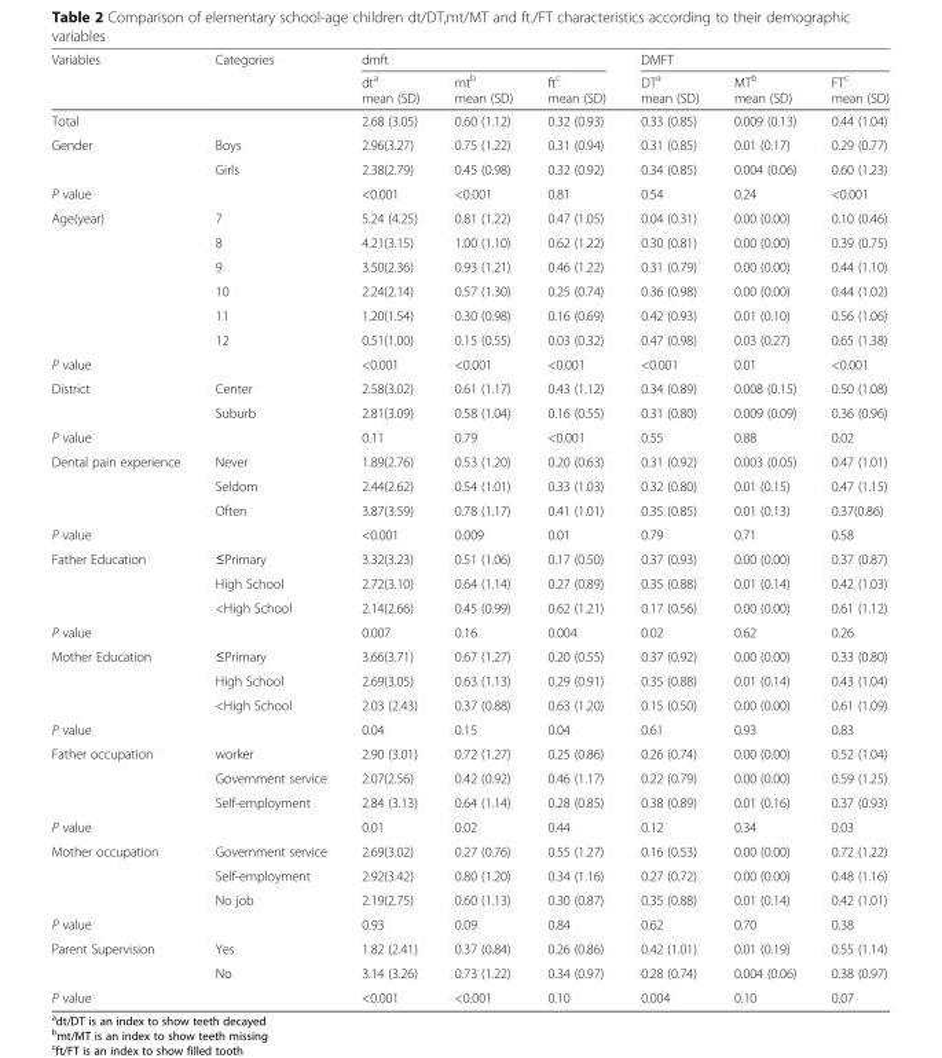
<table><thead><tr><td rowspan="2">Variables</td><td rowspan="2">Categories</td><td colspan="3">dmft</td><td colspan="3">DMFT</td></tr><tr><td>dt<sup>a</sup> mean (SD)</td><td>mt<sup>b</sup> mean (SD)</td><td>ft<sup>c</sup> mean (SD)</td><td>DT<sup>a</sup> mean (SD)</td><td>MT<sup>b</sup> mean (SD)</td><td>FT<sup>c</sup> mean (SD)</td></tr></thead><tbody><tr><td>Total</td><td></td><td>2.68 (3.05)</td><td>0.60 (1.12)</td><td>0.32 (0.93)</td><td>0.33 (0.85)</td><td>0.009 (0.13)</td><td>0.44 (1.04)</td></tr><tr><td rowspan="2">Gender</td><td>Boys</td><td>2.96(3.27)</td><td>0.75 (1.22)</td><td>0.31 (0.94)</td><td>0.31 (0.85)</td><td>0.01 (0.17)</td><td>0.29 (0.77)</td></tr><tr><td>Girls</td><td>2.38(2.79)</td><td>0.45 (0.98)</td><td>0.32 (0.92)</td><td>0.34 (0.85)</td><td>0.004 (0.06)</td><td>0.60 (1.23)</td></tr><tr><td>P value</td><td></td><td>&lt;0.001</td><td>&lt;0.001</td><td>0.81</td><td>0.54</td><td>0.24</td><td>&lt;0.001</td></tr><tr><td rowspan="6">Age(year)</td><td>7</td><td>5.24 (4.25)</td><td>0.81 (1.22)</td><td>0.47 (1.05)</td><td>0.04 (0.31)</td><td>0.00 (0.00)</td><td>0.10 (0.46)</td></tr><tr><td>8</td><td>4.21(3.15)</td><td>1.00 (1.10)</td><td>0.62 (1.22)</td><td>0.30 (0.81)</td><td>0.00 (0.00)</td><td>0.39 (0.75)</td></tr><tr><td>9</td><td>3.50(2.36)</td><td>0.93 (1.21)</td><td>0.46 (1.22)</td><td>0.31 (0.79)</td><td>0.00 (0.00)</td><td>0.44 (1.10)</td></tr><tr><td>10</td><td>2.24(2.14)</td><td>0.57 (1.30)</td><td>0.25 (0.74)</td><td>0.36 (0.98)</td><td>0.00 (0.00)</td><td>0.44 (1.02)</td></tr><tr><td>11</td><td>1.20(1.54)</td><td>0.30 (0.98)</td><td>0.16 (0.69)</td><td>0.42 (0.93)</td><td>0.01 (0.10)</td><td>0.56 (1.06)</td></tr><tr><td>12</td><td>0.51(1.00)</td><td>0.15 (0.55)</td><td>0.03 (0.32)</td><td>0.47 (0.98)</td><td>0.03 (0.27)</td><td>0.65 (1.38)</td></tr><tr><td>P value</td><td></td><td>&lt;0.001</td><td>&lt;0.001</td><td>&lt;0.001</td><td>&lt;0.001</td><td>0.01</td><td>&lt;0.001</td></tr><tr><td rowspan="2">District</td><td>Center</td><td>2.58(3.02)</td><td>0.61 (1.17)</td><td>0.43 (1.12)</td><td>0.34 (0.89)</td><td>0.008 (0.15)</td><td>0.50 (1.08)</td></tr><tr><td>Suburb</td><td>2.81(3.09)</td><td>0.58 (1.04)</td><td>0.16 (0.55)</td><td>0.31 (0.80)</td><td>0.009 (0.09)</td><td>0.36 (0.96)</td></tr><tr><td>P value</td><td></td><td>0.11</td><td>0.79</td><td>&lt;0.001</td><td>0.55</td><td>0.88</td><td>0.02</td></tr><tr><td rowspan="3">Dental pain experience</td><td>Never</td><td>1.89(2.76)</td><td>0.53 (1.20)</td><td>0.20 (0.63)</td><td>0.31 (0.92)</td><td>0.003 (0.05)</td><td>0.47 (1.01)</td></tr><tr><td>Seldom</td><td>2.44(2.62)</td><td>0.54 (1.01)</td><td>0.33 (1.03)</td><td>0.32 (0.80)</td><td>0.01 (0.15)</td><td>0.47 (1.15)</td></tr><tr><td>Often</td><td>3.87(3.59)</td><td>0.78 (1.17)</td><td>0.41 (1.01)</td><td>0.35 (0.85)</td><td>0.01 (0.13)</td><td>0.37(0.86)</td></tr><tr><td>P value</td><td></td><td>&lt;0.001</td><td>0.009</td><td>0.01</td><td>0.79</td><td>0.71</td><td>0.58</td></tr><tr><td rowspan="3">Father Education</td><td>≤Primary</td><td>3.32(3.23)</td><td>0.51 (1.06)</td><td>0.17 (0.50)</td><td>0.37 (0.93)</td><td>0.00 (0.00)</td><td>0.37 (0.87)</td></tr><tr><td>High School</td><td>2.72(3.10)</td><td>0.64 (1.14)</td><td>0.27 (0.89)</td><td>0.35 (0.88)</td><td>0.01 (0.14)</td><td>0.42 (1.03)</td></tr><tr><td>&lt;High School</td><td>2.14(2.66)</td><td>0.45 (0.99)</td><td>0.62 (1.21)</td><td>0.17 (0.56)</td><td>0.00 (0.00)</td><td>0.61 (1.12)</td></tr><tr><td>P value</td><td></td><td>0.007</td><td>0.16</td><td>0.004</td><td>0.02</td><td>0.62</td><td>0.26</td></tr><tr><td rowspan="3">Mother Education</td><td>≤Primary</td><td>3.66(3.71)</td><td>0.67 (1.27)</td><td>0.20 (0.55)</td><td>0.37 (0.92)</td><td>0.00 (0.00)</td><td>0.33 (0.80)</td></tr><tr><td>High School</td><td>2.69(3.05)</td><td>0.63 (1.13)</td><td>0.29 (0.91)</td><td>0.35 (0.88)</td><td>0.01 (0.14)</td><td>0.43 (1.04)</td></tr><tr><td>&lt;High School</td><td>2.03 (2.43)</td><td>0.37 (0.88)</td><td>0.63 (1.20)</td><td>0.15 (0.50)</td><td>0.00 (0.00)</td><td>0.61 (1.09)</td></tr><tr><td>P value</td><td></td><td>0.04</td><td>0.15</td><td>0.04</td><td>0.61</td><td>0.93</td><td>0.83</td></tr><tr><td rowspan="3">Father occupation</td><td>worker</td><td>2.90 (3.01)</td><td>0.72 (1.27)</td><td>0.25 (0.86)</td><td>0.26 (0.74)</td><td>0.00 (0.00)</td><td>0.52 (1.04)</td></tr><tr><td>Government service</td><td>2.07(2.56)</td><td>0.42 (0.92)</td><td>0.46 (1.17)</td><td>0.22 (0.79)</td><td>0.00 (0.00)</td><td>0.59 (1.25)</td></tr><tr><td>Self-employment</td><td>2.84 (3.13)</td><td>0.64 (1.14)</td><td>0.28 (0.85)</td><td>0.38 (0.89)</td><td>0.01 (0.16)</td><td>0.37 (0.93)</td></tr><tr><td>P value</td><td></td><td>0.01</td><td>0.02</td><td>0.44</td><td>0.12</td><td>0.34</td><td>0.03</td></tr><tr><td rowspan="3">Mother occupation</td><td>Government service</td><td>2.69(3.02)</td><td>0.27 (0.76)</td><td>0.55 (1.27)</td><td>0.16 (0.53)</td><td>0.00 (0.00)</td><td>0.72 (1.22)</td></tr><tr><td>Self-employment</td><td>2.92(3.42)</td><td>0.80 (1.20)</td><td>0.34 (1.16)</td><td>0.27 (0.72)</td><td>0.00 (0.00)</td><td>0.48 (1.16)</td></tr><tr><td>No job</td><td>2.19(2.75)</td><td>0.60 (1.13)</td><td>0.30 (0.87)</td><td>0.35 (0.88)</td><td>0.01 (0.14)</td><td>0.42 (1.01)</td></tr><tr><td>P value</td><td></td><td>0.93</td><td>0.09</td><td>0.84</td><td>0.62</td><td>0.70</td><td>0.38</td></tr><tr><td rowspan="2">Parent Supervision</td><td>Yes</td><td>1.82 (2.41)</td><td>0.37 (0.84)</td><td>0.26 (0.86)</td><td>0.42 (1.01)</td><td>0.01 (0.19)</td><td>0.55 (1.14)</td></tr><tr><td>No</td><td>3.14 (3.26)</td><td>0.73 (1.22)</td><td>0.34 (0.97)</td><td>0.28 (0.74)</td><td>0.004 (0.06)</td><td>0.38 (0.97)</td></tr><tr><td>P value</td><td></td><td>&lt;0.001</td><td>&lt;0.001</td><td>0.10</td><td>0.004</td><td>0.10</td><td>0.07</td></tr></tbody></table>